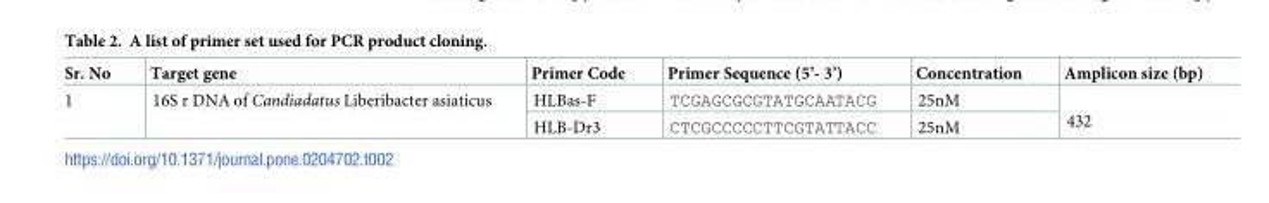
<table><thead><tr><td>Sr. No</td><td>Target gene</td><td>Primer Code</td><td>Primer Sequence (5’- 3’)</td><td>Concentration</td><td>Amplicon size (bp)</td></tr></thead><tbody><tr><td rowspan="2">1</td><td rowspan="2">16S r DNA of Candiadatus Liberibacter asiaticus</td><td>HLBas-F</td><td>TCGAGCGCGTATGCAATACG</td><td>25nM</td><td rowspan="2">432</td></tr><tr><td>HLB-Dr3</td><td>CTCGCCCCCTTCGTATTACC</td><td>25nM</td></tr></tbody></table>